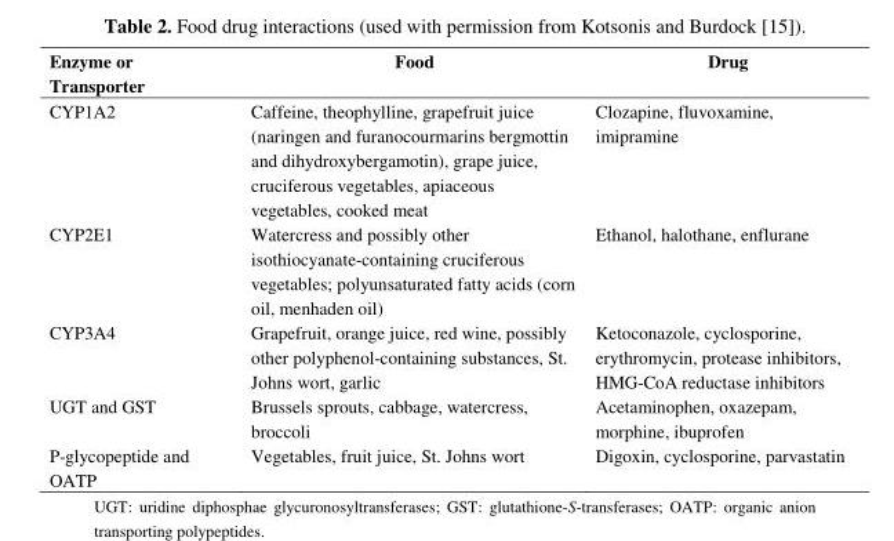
<table><thead><tr><td>Enzyme or Transporter</td><td>Food</td><td>Drug</td></tr></thead><tbody><tr><td>CYP1A2</td><td>Caffeine, theophylline, grapefruit juice (naringen and furanocourmarins bergmottin and dihydroxybergamotin), grape juice, cruciferous vegetables, apiaceous vegetables, cooked meat</td><td>Clozapine, fluvoxamine, imipramine</td></tr><tr><td>CYP2E1</td><td>Watercress and possibly other isothiocyanate-containing cruciferous vegetables; polyunsaturated fatty acids (corn oil, menhaden oil)</td><td>Ethanol, halothane, enflurane</td></tr><tr><td>CYP3A4</td><td>Grapefruit, orange juice, red wine, possibly other polyphenol-containing substances, St. Johns wort, garlic</td><td>Ketoconazole, cyclosporine, erythromycin, protease inhibitors, HMG-CoA reductase inhibitors</td></tr><tr><td>UGT and GST</td><td>Brussels sprouts, cabbage, watercress, broccoli</td><td>Acetaminophen, oxazepam, morphine, ibuprofen</td></tr><tr><td>P-glycopeptide and OATP</td><td>Vegetables, fruit juice, St. Johns wort</td><td>Digoxin, cyclosporine, parvastatin</td></tr></tbody></table>